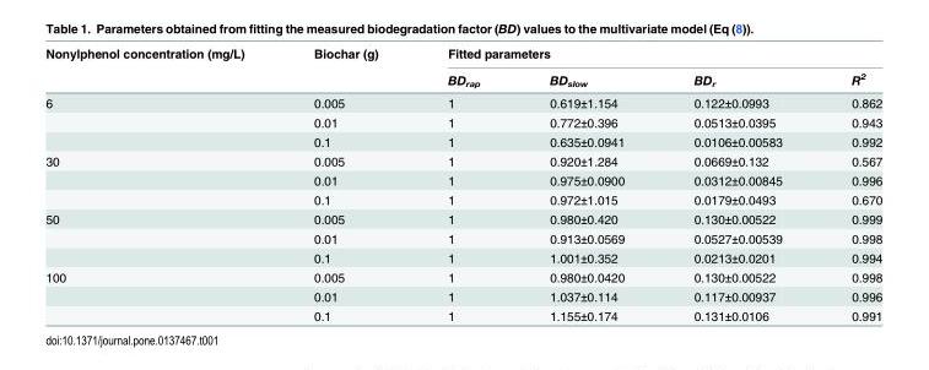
<table><thead><tr><td rowspan="2">Nonylphenol concentration (mg/L)</td><td rowspan="2">Biochar (g)</td><td colspan="4">Fitted parameters</td></tr><tr><td>BD<sub>rap</sub></td><td>BD<sub>slow</sub></td><td>BD<sub>r</sub></td><td>R<sup>2</sup></td></tr></thead><tbody><tr><td rowspan="3">6</td><td>0.005</td><td>1</td><td>0.619±1.154</td><td>0.122±0.0993</td><td>0.862</td></tr><tr><td>0.01</td><td>1</td><td>0.772±0.396</td><td>0.0513±0.0395</td><td>0.943</td></tr><tr><td>0.1</td><td>1</td><td>0.635±0.0941</td><td>0.0106±0.00583</td><td>0.992</td></tr><tr><td rowspan="3">30</td><td>0.005</td><td>1</td><td>0.920±1.284</td><td>0.0669±0.132</td><td>0.567</td></tr><tr><td>0.01</td><td>1</td><td>0.975±0.0900</td><td>0.0312±0.00845</td><td>0.996</td></tr><tr><td>0.1</td><td>1</td><td>0.972±1.015</td><td>0.0179±0.0493</td><td>0.670</td></tr><tr><td rowspan="3">50</td><td>0.005</td><td>1</td><td>0.980±0.420</td><td>0.130±0.00522</td><td>0.999</td></tr><tr><td>0.01</td><td>1</td><td>0.913±0.0569</td><td>0.0527±0.00539</td><td>0.998</td></tr><tr><td>0.1</td><td>1</td><td>1.001±0.352</td><td>0.0213±0.0201</td><td>0.994</td></tr><tr><td rowspan="3">100</td><td>0.005</td><td>1</td><td>0.980±0.0420</td><td>0.130±0.00522</td><td>0.998</td></tr><tr><td>0.01</td><td>1</td><td>1.037±0.114</td><td>0.117±0.00937</td><td>0.996</td></tr><tr><td>0.1</td><td>1</td><td>1.155±0.174</td><td>0.131±0.0106</td><td>0.991</td></tr></tbody></table>